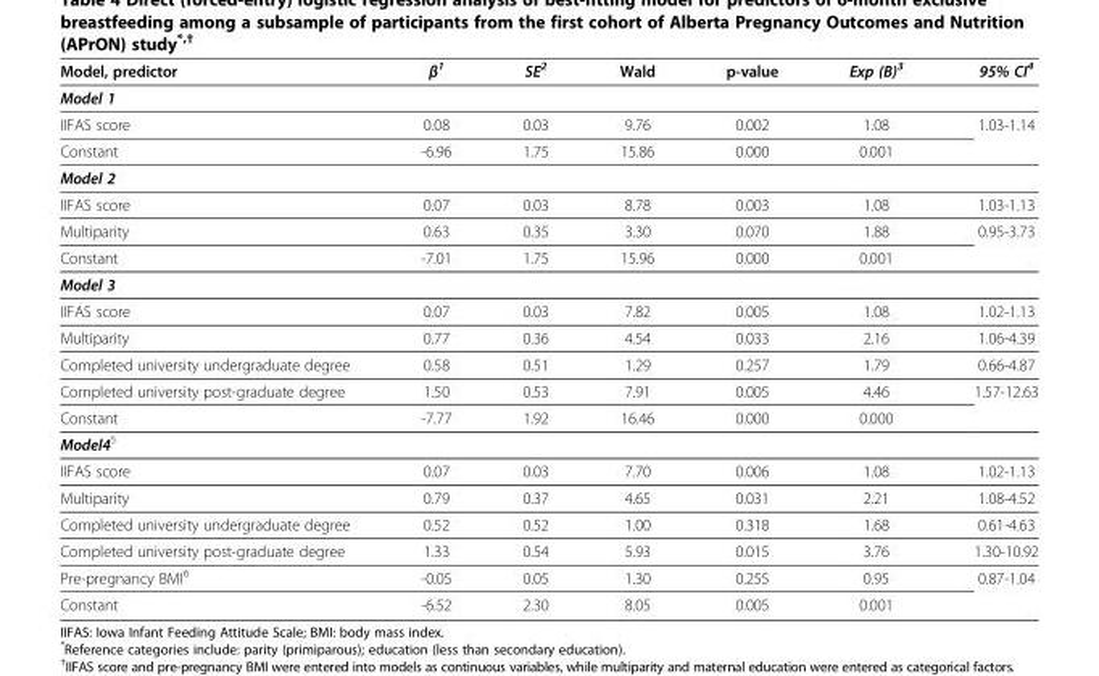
<table><thead><tr><td>Model, predictor</td><td>β<sup>1</sup></td><td>SE<sup>2</sup></td><td>Wald</td><td>p-value</td><td>Exp (B)<sup>3</sup></td><td>95% CI<sup>4</sup></td></tr></thead><tbody><tr><td colspan="7">Model 1</td></tr><tr><td>IIFAS score</td><td>0.08</td><td>0.03</td><td>9.76</td><td>0.002</td><td>1.08</td><td rowspan="2">1.03-1.14</td></tr><tr><td>Constant</td><td>-6.96</td><td>1.75</td><td>15.86</td><td>0.000</td><td>0.001</td></tr><tr><td colspan="7">Model 2</td></tr><tr><td>IIFAS score</td><td>0.07</td><td>0.03</td><td>8.78</td><td>0.003</td><td>1.08</td><td>1.03-1.13</td></tr><tr><td>Multiparity</td><td>0.63</td><td>0.35</td><td>3.30</td><td>0.070</td><td>1.88</td><td rowspan="2">0.95-3.73</td></tr><tr><td>Constant</td><td>-7.01</td><td>1.75</td><td>15.96</td><td>0.000</td><td>0.001</td></tr><tr><td colspan="7">Model 3</td></tr><tr><td>IIFAS score</td><td>0.07</td><td>0.03</td><td>7.82</td><td>0.005</td><td>1.08</td><td>1.02-1.13</td></tr><tr><td>Multiparity</td><td>0.77</td><td>0.36</td><td>4.54</td><td>0.033</td><td>2.16</td><td>1.06-4.39</td></tr><tr><td>Completed university undergraduate degree</td><td>0.58</td><td>0.51</td><td>1.29</td><td>0.257</td><td>1.79</td><td>0.66-4.87</td></tr><tr><td>Completed university post-graduate degree</td><td>1.50</td><td>0.53</td><td>7.91</td><td>0.005</td><td>4.46</td><td rowspan="2">1.57-12.63</td></tr><tr><td>Constant</td><td>-7.77</td><td>1.92</td><td>16.46</td><td>0.000</td><td>0.000</td></tr><tr><td colspan="7">Model4<sup>5</sup></td></tr><tr><td>IIFAS score</td><td>0.07</td><td>0.03</td><td>7.70</td><td>0.006</td><td>1.08</td><td>1.02-1.13</td></tr><tr><td>Multiparity</td><td>0.79</td><td>0.37</td><td>4.65</td><td>0.031</td><td>2.21</td><td>1.08-4.52</td></tr><tr><td>Completed university undergraduate degree</td><td>0.52</td><td>0.52</td><td>1.00</td><td>0.318</td><td>1.68</td><td>0.61-4.63</td></tr><tr><td>Completed university post-graduate degree</td><td>1.33</td><td>0.54</td><td>5.93</td><td>0.015</td><td>3.76</td><td>1.30-10.92</td></tr><tr><td>Pre-pregnancy BMI<sup>6</sup></td><td>-0.05</td><td>0.05</td><td>1.30</td><td>0.255</td><td>0.95</td><td rowspan="2">0.87-1.04</td></tr><tr><td>Constant</td><td>-6.52</td><td>2.30</td><td>8.05</td><td>0.005</td><td>0.001</td></tr></tbody></table>